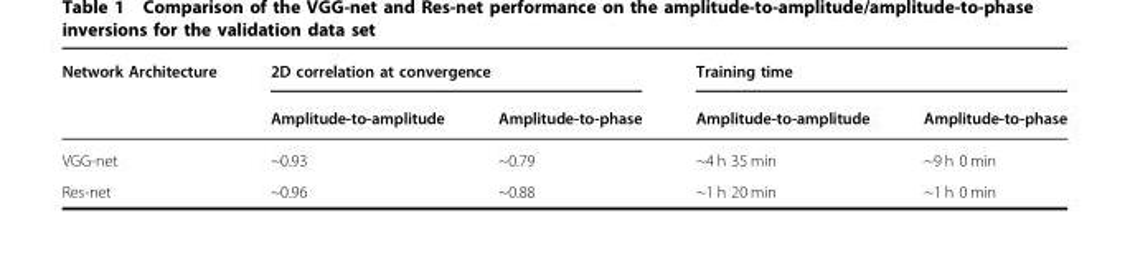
<table><thead><tr><td rowspan="2">Network Architecture</td><td colspan="2">2D correlation at convergence</td><td colspan="2">Training time</td></tr><tr><td>Amplitude-to-amplitude</td><td>Amplitude-to-phase</td><td>Amplitude-to-amplitude</td><td>Amplitude-to-phase</td></tr></thead><tbody><tr><td>VGG-net</td><td>~0.93</td><td>~0.79</td><td>~4 h 35 min</td><td>~9 h 0 min</td></tr><tr><td>Res-net</td><td>~0.96</td><td>~0.88</td><td>~1 h 20 min</td><td>~1 h 0 min</td></tr></tbody></table>